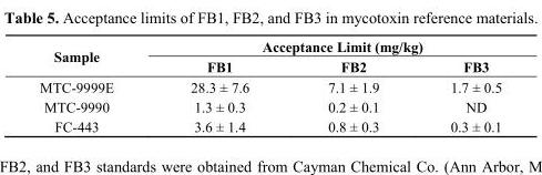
<table><thead><tr><td rowspan="2">Sample</td><td colspan="3">Acceptance Limit (mg/kg)</td></tr><tr><td>FB1</td><td>FB2</td><td>FB3</td></tr></thead><tbody><tr><td>MTC-9999E</td><td>28.3 ± 7.6</td><td>7.1 ± 1.9</td><td>1.7 ± 0.5</td></tr><tr><td>MTC-9990</td><td>1.3 ± 0.3</td><td>0.2 ± 0.1</td><td>ND</td></tr><tr><td>FC-443</td><td>3.6 ± 1.4</td><td>0.8 ± 0.3</td><td>0.3 ± 0.1</td></tr></tbody></table>